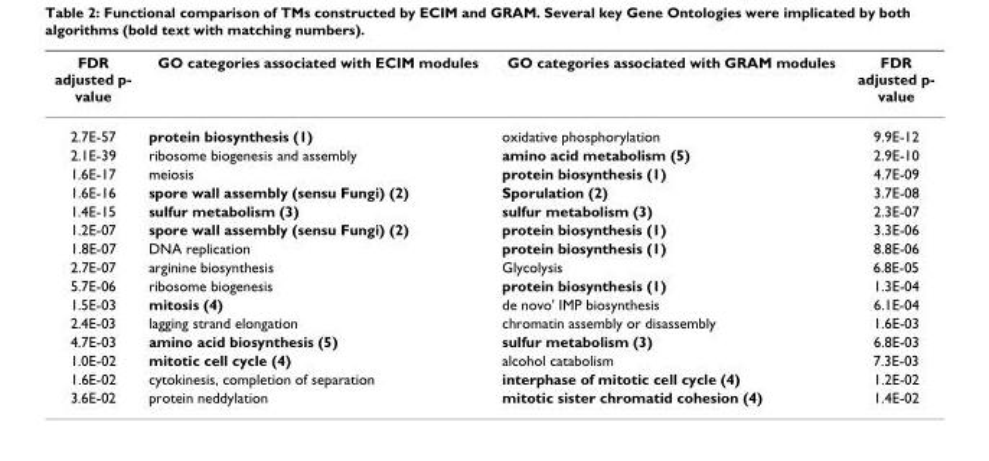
<table><thead><tr><td>FDR adjusted p- value</td><td>GO categories associated with ECIM modules</td><td>GO categories associated with GRAM modules</td><td>FDR adjusted p- value</td></tr></thead><tbody><tr><td>2.7E-57</td><td>protein biosynthesis (1)</td><td>oxidative phosphorylation</td><td>9.9E-12</td></tr><tr><td>2.1E-39</td><td>ribosome biogenesis and assembly</td><td>amino acid metabolism (5)</td><td>2.9E-10</td></tr><tr><td>1.6E-17</td><td>meiosis</td><td>protein biosynthesis (1)</td><td>4.7E-09</td></tr><tr><td>1.6E-16</td><td>spore wall assembly (sensu Fungi) (2)</td><td>Sporulation (2)</td><td>3.7E-08</td></tr><tr><td>1.4E-15</td><td>sulfur metabolism (3)</td><td>sulfur metabolism (3)</td><td>2.3E-07</td></tr><tr><td>1.2E-07</td><td>spore wall assembly (sensu Fungi) (2)</td><td>protein biosynthesis (1)</td><td>3.3E-06</td></tr><tr><td>1.8E-07</td><td>DNA replication</td><td>protein biosynthesis (1)</td><td>8.8E-06</td></tr><tr><td>2.7E-07</td><td>arginine biosynthesis</td><td>Glycolysis</td><td>6.8E-05</td></tr><tr><td>5.7E-06</td><td>ribosome biogenesis</td><td>protein biosynthesis (1)</td><td>1.3E-04</td></tr><tr><td>1.5E-03</td><td>mitosis (4)</td><td>de novo&#x27; IMP biosynthesis</td><td>6.1E-04</td></tr><tr><td>2.4E-03</td><td>lagging strand elongation</td><td>chromatin assembly or disassembly</td><td>1.6E-03</td></tr><tr><td>4.7E-03</td><td>amino acid biosynthesis (5)</td><td>sulfur metabolism (3)</td><td>6.8E-03</td></tr><tr><td>1.0E-02</td><td>mitotic cell cycle (4)</td><td>alcohol catabolism</td><td>7.3E-03</td></tr><tr><td>1.6E-02</td><td>cytokinesis, completion of separation</td><td>interphase of mitotic cell cycle (4)</td><td>1.2E-02</td></tr><tr><td>3.6E-02</td><td>protein neddylation</td><td>mitotic sister chromatid cohesion (4)</td><td>1.4E-02</td></tr></tbody></table>